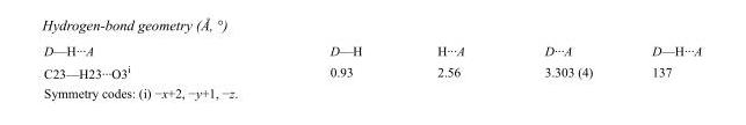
<table><tbody><tr><td>D—H···A</td><td>D—H</td><td>H···A</td><td>D···A</td><td>D—H···A</td></tr><tr><td>C23—H23···O3<sup>i</sup></td><td>0.93</td><td>2.56</td><td>3.303 (4)</td><td>137</td></tr></tbody></table>